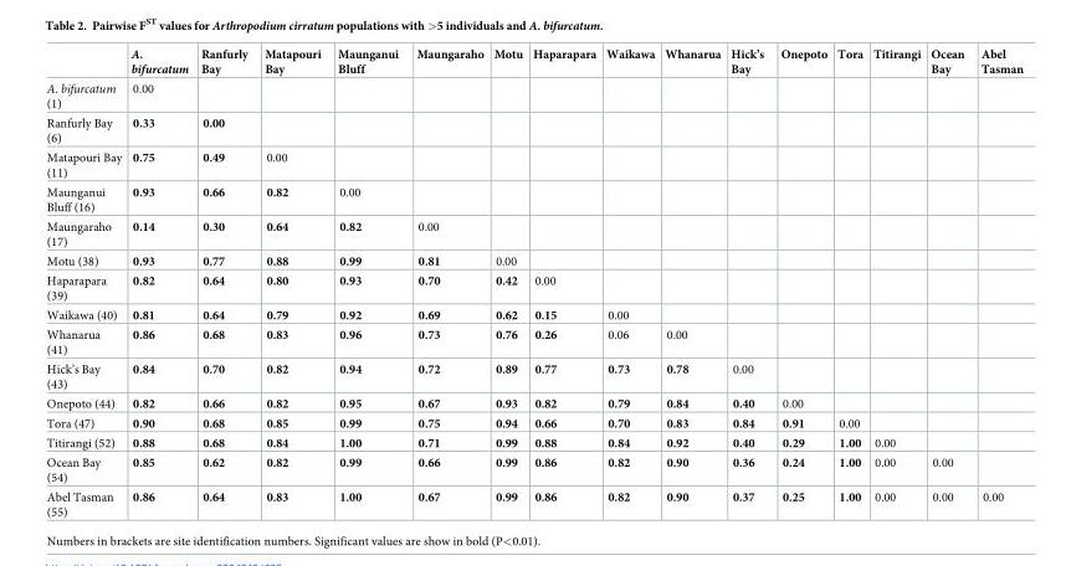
<table><thead><tr><td></td><td>A. bifurcatum</td><td>Ranfurly Bay</td><td>Matapouri Bay</td><td>Maunganui Bluff</td><td>Maungaraho</td><td>Motu</td><td>Haparapara</td><td>Waikawa</td><td>Whanarua</td><td>Hick’s Bay</td><td>Onepoto</td><td>Tora</td><td>Titirangi</td><td>Ocean Bay</td><td>Abel Tasman</td></tr></thead><tbody><tr><td>A. bifurcatum (1)</td><td>0.00</td><td></td><td></td><td></td><td></td><td></td><td></td><td></td><td></td><td></td><td></td><td></td><td></td><td></td><td></td></tr><tr><td>Ranfurly Bay (6)</td><td>0.33</td><td>0.00</td><td></td><td></td><td></td><td></td><td></td><td></td><td></td><td></td><td></td><td></td><td></td><td></td><td></td></tr><tr><td>Matapouri Bay (11)</td><td>0.75</td><td>0.49</td><td>0.00</td><td></td><td></td><td></td><td></td><td></td><td></td><td></td><td></td><td></td><td></td><td></td><td></td></tr><tr><td>Maunganui Bluff (16)</td><td>0.93</td><td>0.66</td><td>0.82</td><td>0.00</td><td></td><td></td><td></td><td></td><td></td><td></td><td></td><td></td><td></td><td></td><td></td></tr><tr><td>Maungaraho (17)</td><td>0.14</td><td>0.30</td><td>0.64</td><td>0.82</td><td>0.00</td><td></td><td></td><td></td><td></td><td></td><td></td><td></td><td></td><td></td><td></td></tr><tr><td>Motu (38)</td><td>0.93</td><td>0.77</td><td>0.88</td><td>0.99</td><td>0.81</td><td>0.00</td><td></td><td></td><td></td><td></td><td></td><td></td><td></td><td></td><td></td></tr><tr><td>Haparapara (39)</td><td>0.82</td><td>0.64</td><td>0.80</td><td>0.93</td><td>0.70</td><td>0.42</td><td>0.00</td><td></td><td></td><td></td><td></td><td></td><td></td><td></td><td></td></tr><tr><td>Waikawa (40)</td><td>0.81</td><td>0.64</td><td>0.79</td><td>0.92</td><td>0.69</td><td>0.62</td><td>0.15</td><td>0.00</td><td></td><td></td><td></td><td></td><td></td><td></td><td></td></tr><tr><td>Whanarua (41)</td><td>0.86</td><td>0.68</td><td>0.83</td><td>0.96</td><td>0.73</td><td>0.76</td><td>0.26</td><td>0.06</td><td>0.00</td><td></td><td></td><td></td><td></td><td></td><td></td></tr><tr><td>Hick’s Bay (43)</td><td>0.84</td><td>0.70</td><td>0.82</td><td>0.94</td><td>0.72</td><td>0.89</td><td>0.77</td><td>0.73</td><td>0.78</td><td>0.00</td><td></td><td></td><td></td><td></td><td></td></tr><tr><td>Onepoto (44)</td><td>0.82</td><td>0.66</td><td>0.82</td><td>0.95</td><td>0.67</td><td>0.93</td><td>0.82</td><td>0.79</td><td>0.84</td><td>0.40</td><td>0.00</td><td></td><td></td><td></td><td></td></tr><tr><td>Tora (47)</td><td>0.90</td><td>0.68</td><td>0.85</td><td>0.99</td><td>0.75</td><td>0.94</td><td>0.66</td><td>0.70</td><td>0.83</td><td>0.84</td><td>0.91</td><td>0.00</td><td></td><td></td><td></td></tr><tr><td>Titirangi (52)</td><td>0.88</td><td>0.68</td><td>0.84</td><td>1.00</td><td>0.71</td><td>0.99</td><td>0.88</td><td>0.84</td><td>0.92</td><td>0.40</td><td>0.29</td><td>1.00</td><td>0.00</td><td></td><td></td></tr><tr><td>Ocean Bay (54)</td><td>0.85</td><td>0.62</td><td>0.82</td><td>0.99</td><td>0.66</td><td>0.99</td><td>0.86</td><td>0.82</td><td>0.90</td><td>0.36</td><td>0.24</td><td>1.00</td><td>0.00</td><td>0.00</td><td></td></tr><tr><td>Abel Tasman (55)</td><td>0.86</td><td>0.64</td><td>0.83</td><td>1.00</td><td>0.67</td><td>0.99</td><td>0.86</td><td>0.82</td><td>0.90</td><td>0.37</td><td>0.25</td><td>1.00</td><td>0.00</td><td>0.00</td><td>0.00</td></tr></tbody></table>